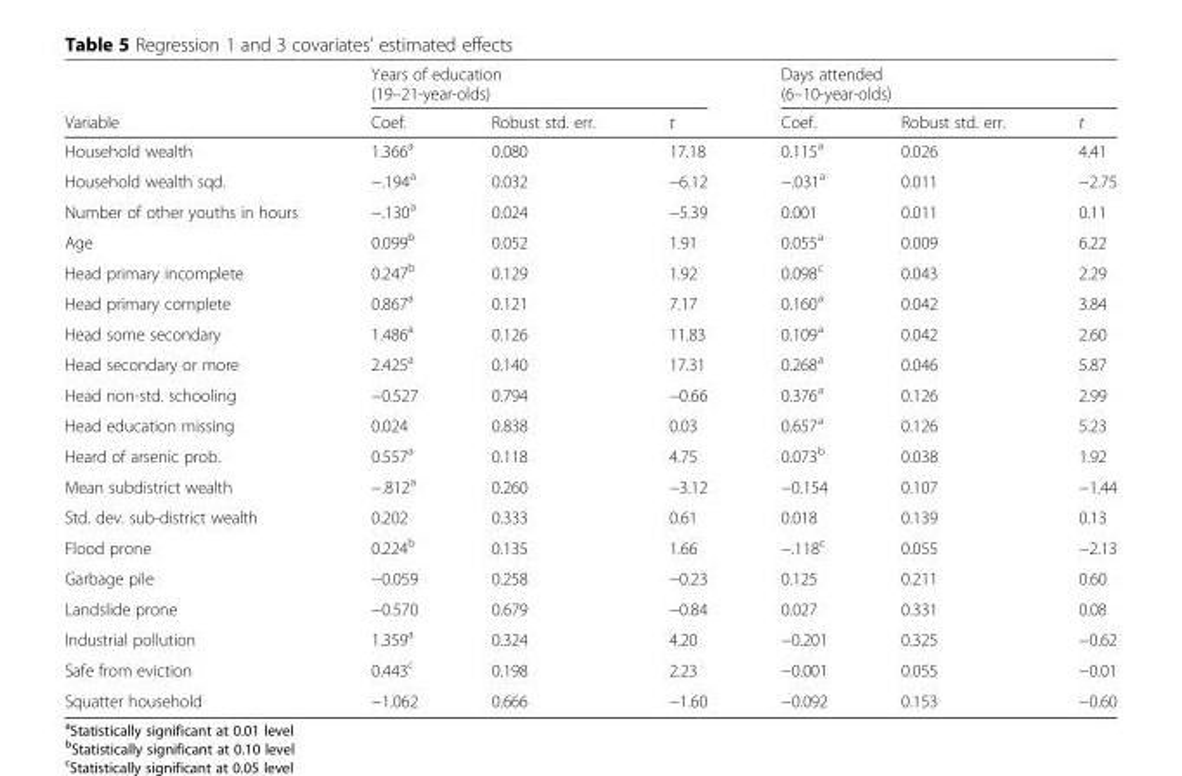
<table><thead><tr><td rowspan="3">Variable</td><td rowspan="2" colspan="3">Years of education (19–21-year-olds)</td><td rowspan="2" colspan="3">Days attended (6–10-year-olds)</td></tr><tr></tr><tr><td>Coef.</td><td>Robust std. err.</td><td>t</td><td>Coef.</td><td>Robust std. err.</td><td>t</td></tr></thead><tbody><tr><td>Household wealth</td><td>1.366<sup>a</sup></td><td>0.080</td><td>17.18</td><td>0.115<sup>a</sup></td><td>0.026</td><td>4.41</td></tr><tr><td>Household wealth sqd.</td><td>−.194<sup>a</sup></td><td>0.032</td><td>−6.12</td><td>−.031<sup>a</sup></td><td>0.011</td><td>−2.75</td></tr><tr><td>Number of other youths in hours</td><td>−.130<sup>a</sup></td><td>0.024</td><td>−5.39</td><td>0.001</td><td>0.011</td><td>0.11</td></tr><tr><td>Age</td><td>0.099<sup>b</sup></td><td>0.052</td><td>1.91</td><td>0.055<sup>a</sup></td><td>0.009</td><td>6.22</td></tr><tr><td>Head primary incomplete</td><td>0.247<sup>b</sup></td><td>0.129</td><td>1.92</td><td>0.098<sup>c</sup></td><td>0.043</td><td>2.29</td></tr><tr><td>Head primary complete</td><td>0.867<sup>a</sup></td><td>0.121</td><td>7.17</td><td>0.160<sup>a</sup></td><td>0.042</td><td>3.84</td></tr><tr><td>Head some secondary</td><td>1.486<sup>a</sup></td><td>0.126</td><td>11.83</td><td>0.109<sup>a</sup></td><td>0.042</td><td>2.60</td></tr><tr><td>Head secondary or more</td><td>2.425<sup>a</sup></td><td>0.140</td><td>17.31</td><td>0.268<sup>a</sup></td><td>0.046</td><td>5.87</td></tr><tr><td>Head non-std. schooling</td><td>−0.527</td><td>0.794</td><td>−0.66</td><td>0.376<sup>a</sup></td><td>0.126</td><td>2.99</td></tr><tr><td>Head education missing</td><td>0.024</td><td>0.838</td><td>0.03</td><td>0.657<sup>a</sup></td><td>0.126</td><td>5.23</td></tr><tr><td>Heard of arsenic prob.</td><td>0.557<sup>a</sup></td><td>0.118</td><td>4.75</td><td>0.073<sup>b</sup></td><td>0.038</td><td>1.92</td></tr><tr><td>Mean subdistrict wealth</td><td>−.812<sup>a</sup></td><td>0.260</td><td>−3.12</td><td>−0.154</td><td>0.107</td><td>−1.44</td></tr><tr><td>Std. dev. sub-district wealth</td><td>0.202</td><td>0.333</td><td>0.61</td><td>0.018</td><td>0.139</td><td>0.13</td></tr><tr><td>Flood prone</td><td>0.224<sup>b</sup></td><td>0.135</td><td>1.66</td><td>−.118<sup>c</sup></td><td>0.055</td><td>−2.13</td></tr><tr><td>Garbage pile</td><td>−0.059</td><td>0.258</td><td>−0.23</td><td>0.125</td><td>0.211</td><td>0.60</td></tr><tr><td>Landslide prone</td><td>−0.570</td><td>0.679</td><td>−0.84</td><td>0.027</td><td>0.331</td><td>0.08</td></tr><tr><td>Industrial pollution</td><td>1.359<sup>a</sup></td><td>0.324</td><td>4.20</td><td>−0.201</td><td>0.325</td><td>−0.62</td></tr><tr><td>Safe from eviction</td><td>0.443<sup>c</sup></td><td>0.198</td><td>2.23</td><td>−0.001</td><td>0.055</td><td>−0.01</td></tr><tr><td>Squatter household</td><td>−1.062</td><td>0.666</td><td>−1.60</td><td>−0.092</td><td>0.153</td><td>−0.60</td></tr></tbody></table>